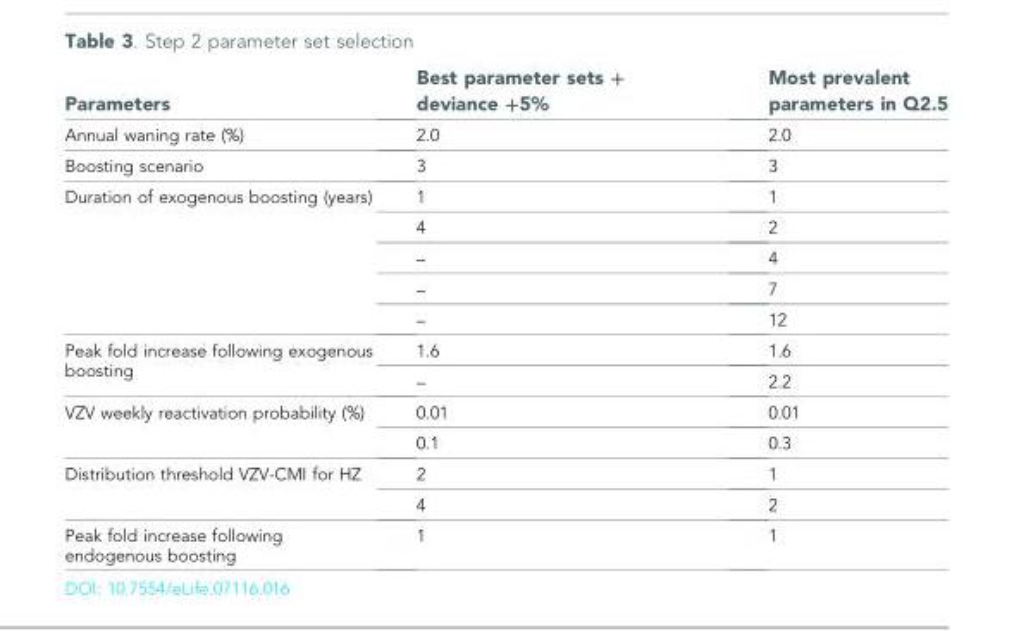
<table><thead><tr><td>Parameters</td><td>Best parameter sets + deviance +5%</td><td>Most prevalent parameters in Q2.5</td></tr></thead><tbody><tr><td>Annual waning rate (%)</td><td>2.0</td><td>2.0</td></tr><tr><td>Boosting scenario</td><td>3</td><td>3</td></tr><tr><td rowspan="5">Duration of exogenous boosting (years)</td><td>1</td><td>1</td></tr><tr><td>4</td><td>2</td></tr><tr><td>–</td><td>4</td></tr><tr><td>–</td><td>7</td></tr><tr><td>–</td><td>12</td></tr><tr><td rowspan="2">Peak fold increase following exogenous boosting</td><td>1.6</td><td>1.6</td></tr><tr><td>–</td><td>2.2</td></tr><tr><td rowspan="2">VZV weekly reactivation probability (%)</td><td>0.01</td><td>0.01</td></tr><tr><td>0.1</td><td>0.3</td></tr><tr><td rowspan="2">Distribution threshold VZV-CMI for HZ</td><td>2</td><td>1</td></tr><tr><td>4</td><td>2</td></tr><tr><td>Peak fold increase following endogenous boosting</td><td>1</td><td>1</td></tr></tbody></table>